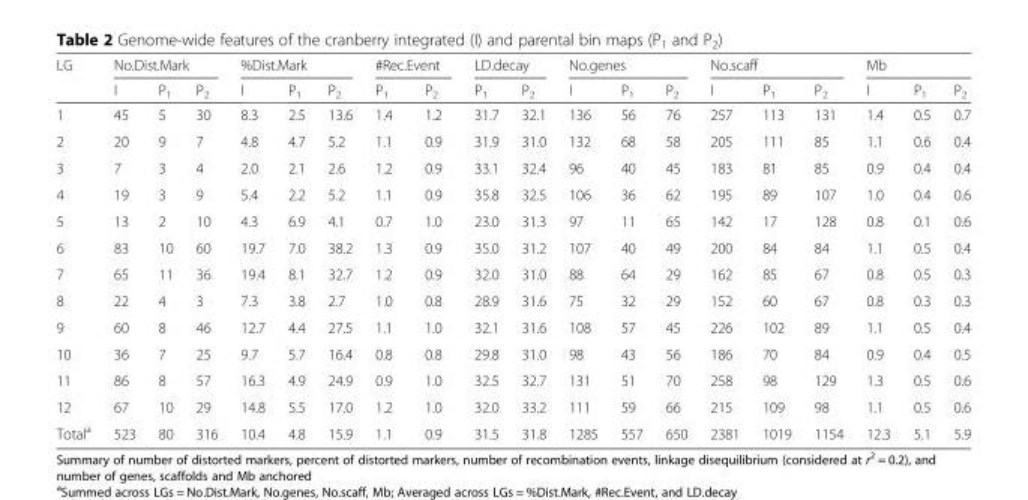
<table><thead><tr><td rowspan="2">LG</td><td colspan="3">No.Dist.Mark</td><td colspan="3">%Dist.Mark</td><td colspan="2">#Rec.Event</td><td colspan="2">LD.decay</td><td colspan="3">No.genes</td><td colspan="3">No.scaff</td><td colspan="3">Mb</td></tr><tr><td>I</td><td>P<sub>1</sub></td><td>P<sub>2</sub></td><td>I</td><td>P<sub>1</sub></td><td>P<sub>2</sub></td><td>P<sub>1</sub></td><td>P<sub>2</sub></td><td>P<sub>1</sub></td><td>P<sub>2</sub></td><td>I</td><td>P<sub>1</sub></td><td>P<sub>2</sub></td><td>I</td><td>P<sub>1</sub></td><td>P<sub>2</sub></td><td>I</td><td>P<sub>1</sub></td><td>P<sub>2</sub></td></tr></thead><tbody><tr><td>1</td><td>45</td><td>5</td><td>30</td><td>8.3</td><td>2.5</td><td>13.6</td><td>1.4</td><td>1.2</td><td>31.7</td><td>32.1</td><td>136</td><td>56</td><td>76</td><td>257</td><td>113</td><td>131</td><td>1.4</td><td>0.5</td><td>0.7</td></tr><tr><td>2</td><td>20</td><td>9</td><td>7</td><td>4.8</td><td>4.7</td><td>5.2</td><td>1.1</td><td>0.9</td><td>31.9</td><td>31.0</td><td>132</td><td>68</td><td>58</td><td>205</td><td>111</td><td>85</td><td>1.1</td><td>0.6</td><td>0.4</td></tr><tr><td>3</td><td>7</td><td>3</td><td>4</td><td>2.0</td><td>2.1</td><td>2.6</td><td>1.2</td><td>0.9</td><td>33.1</td><td>32.4</td><td>96</td><td>40</td><td>45</td><td>183</td><td>81</td><td>85</td><td>0.9</td><td>0.4</td><td>0.4</td></tr><tr><td>4</td><td>19</td><td>3</td><td>9</td><td>5.4</td><td>2.2</td><td>5.2</td><td>1.1</td><td>0.9</td><td>35.8</td><td>32.5</td><td>106</td><td>36</td><td>62</td><td>195</td><td>89</td><td>107</td><td>1.0</td><td>0.4</td><td>0.6</td></tr><tr><td>5</td><td>13</td><td>2</td><td>10</td><td>4.3</td><td>6.9</td><td>4.1</td><td>0.7</td><td>1.0</td><td>23.0</td><td>31.3</td><td>97</td><td>11</td><td>65</td><td>142</td><td>17</td><td>128</td><td>0.8</td><td>0.1</td><td>0.6</td></tr><tr><td>6</td><td>83</td><td>10</td><td>60</td><td>19.7</td><td>7.0</td><td>38.2</td><td>1.3</td><td>0.9</td><td>35.0</td><td>31.2</td><td>107</td><td>40</td><td>49</td><td>200</td><td>84</td><td>84</td><td>1.1</td><td>0.5</td><td>0.4</td></tr><tr><td>7</td><td>65</td><td>11</td><td>36</td><td>19.4</td><td>8.1</td><td>32.7</td><td>1.2</td><td>0.9</td><td>32.0</td><td>31.0</td><td>88</td><td>64</td><td>29</td><td>162</td><td>85</td><td>67</td><td>0.8</td><td>0.5</td><td>0.3</td></tr><tr><td>8</td><td>22</td><td>4</td><td>3</td><td>7.3</td><td>3.8</td><td>2.7</td><td>1.0</td><td>0.8</td><td>28.9</td><td>31.6</td><td>75</td><td>32</td><td>29</td><td>152</td><td>60</td><td>67</td><td>0.8</td><td>0.3</td><td>0.3</td></tr><tr><td>9</td><td>60</td><td>8</td><td>46</td><td>12.7</td><td>4.4</td><td>27.5</td><td>1.1</td><td>1.0</td><td>32.1</td><td>31.6</td><td>108</td><td>57</td><td>45</td><td>226</td><td>102</td><td>89</td><td>1.1</td><td>0.5</td><td>0.4</td></tr><tr><td>10</td><td>36</td><td>7</td><td>25</td><td>9.7</td><td>5.7</td><td>16.4</td><td>0.8</td><td>0.8</td><td>29.8</td><td>31.0</td><td>98</td><td>43</td><td>56</td><td>186</td><td>70</td><td>84</td><td>0.9</td><td>0.4</td><td>0.5</td></tr><tr><td>11</td><td>86</td><td>8</td><td>57</td><td>16.3</td><td>4.9</td><td>24.9</td><td>0.9</td><td>1.0</td><td>32.5</td><td>32.7</td><td>131</td><td>51</td><td>70</td><td>258</td><td>98</td><td>129</td><td>1.3</td><td>0.5</td><td>0.6</td></tr><tr><td>12</td><td>67</td><td>10</td><td>29</td><td>14.8</td><td>5.5</td><td>17.0</td><td>1.2</td><td>1.0</td><td>32.0</td><td>33.2</td><td>111</td><td>59</td><td>66</td><td>215</td><td>109</td><td>98</td><td>1.1</td><td>0.5</td><td>0.6</td></tr><tr><td>Total<sup>a</sup></td><td>523</td><td>80</td><td>316</td><td>10.4</td><td>4.8</td><td>15.9</td><td>1.1</td><td>0.9</td><td>31.5</td><td>31.8</td><td>1285</td><td>557</td><td>650</td><td>2381</td><td>1019</td><td>1154</td><td>12.3</td><td>5.1</td><td>5.9</td></tr></tbody></table>